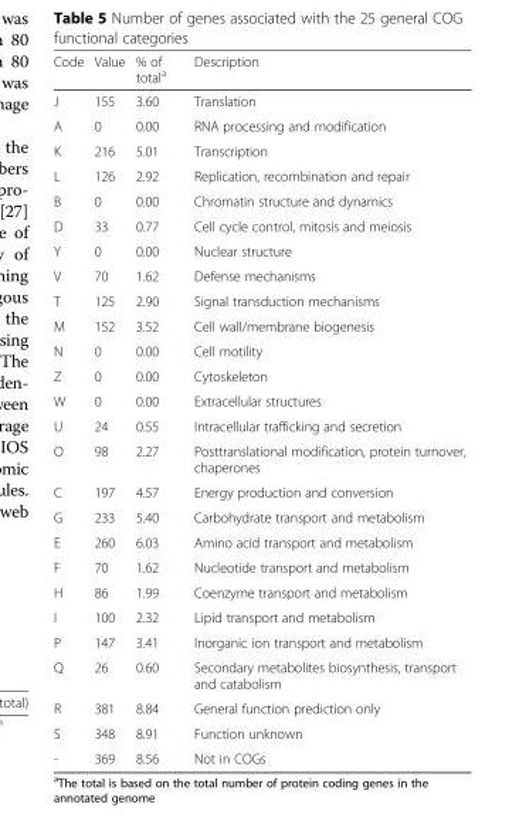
<table><thead><tr><td>Code</td><td>Value</td><td>% of total<sup>a</sup></td><td>Description</td></tr></thead><tbody><tr><td>J</td><td>155</td><td>3.60</td><td>Translation</td></tr><tr><td>A</td><td>0</td><td>0.00</td><td>RNA processing and modification</td></tr><tr><td>K</td><td>216</td><td>5.01</td><td>Transcription</td></tr><tr><td>L</td><td>126</td><td>2.92</td><td>Replication, recombination and repair</td></tr><tr><td>B</td><td>0</td><td>0.00</td><td>Chromatin structure and dynamics</td></tr><tr><td>D</td><td>33</td><td>0.77</td><td>Cell cycle control, mitosis and meiosis</td></tr><tr><td>Y</td><td>0</td><td>0.00</td><td>Nuclear structure</td></tr><tr><td>V</td><td>70</td><td>1.62</td><td>Defense mechanisms</td></tr><tr><td>T</td><td>125</td><td>2.90</td><td>Signal transduction mechanisms</td></tr><tr><td>M</td><td>152</td><td>3.52</td><td>Cell wall/membrane biogenesis</td></tr><tr><td>N</td><td>0</td><td>0.00</td><td>Cell motility</td></tr><tr><td>Z</td><td>0</td><td>0.00</td><td>Cytoskeleton</td></tr><tr><td>W</td><td>0</td><td>0.00</td><td>Extracellular structures</td></tr><tr><td>U</td><td>24</td><td>0.55</td><td>Intracellular trafficking and secretion</td></tr><tr><td>O</td><td>98</td><td>2.27</td><td>Posttranslational modification, protein turnover, chaperones</td></tr><tr><td>C</td><td>197</td><td>4.57</td><td>Energy production and conversion</td></tr><tr><td>G</td><td>233</td><td>5.40</td><td>Carbohydrate transport and metabolism</td></tr><tr><td>E</td><td>260</td><td>6.03</td><td>Amino acid transport and metabolism</td></tr><tr><td>F</td><td>70</td><td>1.62</td><td>Nucleotide transport and metabolism</td></tr><tr><td>H</td><td>86</td><td>1.99</td><td>Coenzyme transport and metabolism</td></tr><tr><td>I</td><td>100</td><td>2.32</td><td>Lipid transport and metabolism</td></tr><tr><td>P</td><td>147</td><td>3.41</td><td>Inorganic ion transport and metabolism</td></tr><tr><td>Q</td><td>26</td><td>0.60</td><td>Secondary metabolites biosynthesis, transport and catabolism</td></tr><tr><td>R</td><td>381</td><td>8.84</td><td>General function prediction only</td></tr><tr><td>S</td><td>348</td><td>8.91</td><td>Function unknown</td></tr><tr><td>-</td><td>369</td><td>8.56</td><td>Not in COGs</td></tr></tbody></table>